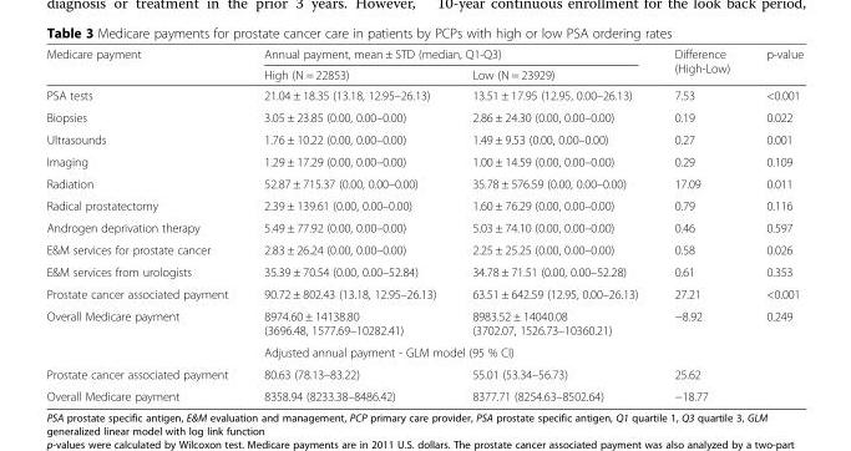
<table><thead><tr><td rowspan="2">Medicare payment</td><td colspan="2">Annual payment, mean ± STD (median, Q1-Q3)</td><td rowspan="2">Difference (High-Low)</td><td rowspan="2">p-value</td></tr><tr><td>High (N = 22853)</td><td>Low (N = 23929)</td></tr></thead><tbody><tr><td>PSA tests</td><td>21.04 ± 18.35 (13.18, 12.95–26.13)</td><td>13.51 ± 17.95 (12.95, 0.00–26.13)</td><td>7.53</td><td>&lt;0.001</td></tr><tr><td>Biopsies</td><td>3.05 ± 23.85 (0.00, 0.00–0.00)</td><td>2.86 ± 24.30 (0.00, 0.00–0.00)</td><td>0.19</td><td>0.022</td></tr><tr><td>Ultrasounds</td><td>1.76 ± 10.22 (0.00, 0.00–0.00)</td><td>1.49 ± 9.53 (0.00, 0.00–0.00)</td><td>0.27</td><td>0.001</td></tr><tr><td>Imaging</td><td>1.29 ± 17.29 (0.00, 0.00–0.00)</td><td>1.00 ± 14.59 (0.00, 0.00–0.00)</td><td>0.29</td><td>0.109</td></tr><tr><td>Radiation</td><td>52.87 ± 715.37 (0.00, 0.00–0.00)</td><td>35.78 ± 576.59 (0.00, 0.00–0.00)</td><td>17.09</td><td>0.011</td></tr><tr><td>Radical prostatectomy</td><td>2.39 ± 139.61 (0.00, 0.00–0.00)</td><td>1.60 ± 76.29 (0.00, 0.00–0.00)</td><td>0.79</td><td>0.116</td></tr><tr><td>Androgen deprivation therapy</td><td>5.49 ± 77.92 (0.00, 0.00–0.00)</td><td>5.03 ± 74.10 (0.00, 0.00–0.00)</td><td>0.46</td><td>0.597</td></tr><tr><td>E&amp;M services for prostate cancer</td><td>2.83 ± 26.24 (0.00, 0.00–0.00)</td><td>2.25 ± 25.25 (0.00, 0.00–0.00)</td><td>0.58</td><td>0.026</td></tr><tr><td>E&amp;M services from urologists</td><td>35.39 ± 70.54 (0.00, 0.00–52.84)</td><td>34.78 ± 71.51 (0.00, 0.00–52.28)</td><td>0.61</td><td>0.353</td></tr><tr><td>Prostate cancer associated payment</td><td>90.72 ± 802.43 (13.18, 12.95–26.13)</td><td>63.51 ± 642.59 (12.95, 0.00–26.13)</td><td>27.21</td><td>&lt;0.001</td></tr><tr><td rowspan="2">Overall Medicare payment</td><td>8974.60 ± 14138.80 (3696.48, 1577.69–10282.41)</td><td>8983.52 ± 14040.08 (3702.07, 1526.73–10360.21)</td><td>−8.92</td><td>0.249</td></tr><tr><td colspan="2">Adjusted annual payment - GLM model (95 % CI)</td><td></td><td></td></tr><tr><td>Prostate cancer associated payment</td><td>80.63 (78.13–83.22)</td><td>55.01 (53.34–56.73)</td><td>25.62</td><td></td></tr><tr><td>Overall Medicare payment</td><td>8358.94 (8233.38–8486.42)</td><td>8377.71 (8254.63–8502.64)</td><td>−18.77</td><td></td></tr></tbody></table>